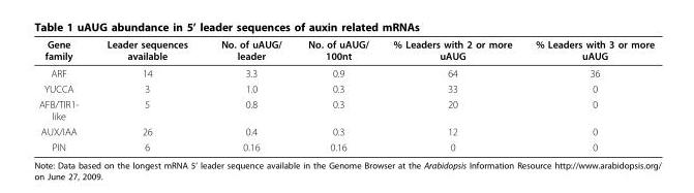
<table><thead><tr><td>Gene family</td><td>Leader sequences available</td><td>No. of uAUG/ leader</td><td>No. of uAUG/ 100nt</td><td>% Leaders with 2 or more uAUG</td><td>% Leaders with 3 or more uAUG</td></tr></thead><tbody><tr><td>ARF</td><td>14</td><td>3.3</td><td>0.9</td><td>64</td><td>36</td></tr><tr><td>YUCCA</td><td>3</td><td>1.0</td><td>0.3</td><td>33</td><td>0</td></tr><tr><td>AFB/TIR1- like</td><td>5</td><td>0.8</td><td>0.3</td><td>20</td><td>0</td></tr><tr><td>AUX/IAA</td><td>26</td><td>0.4</td><td>0.3</td><td>12</td><td>0</td></tr><tr><td>PIN</td><td>6</td><td>0.16</td><td>0.16</td><td>0</td><td>0</td></tr></tbody></table>